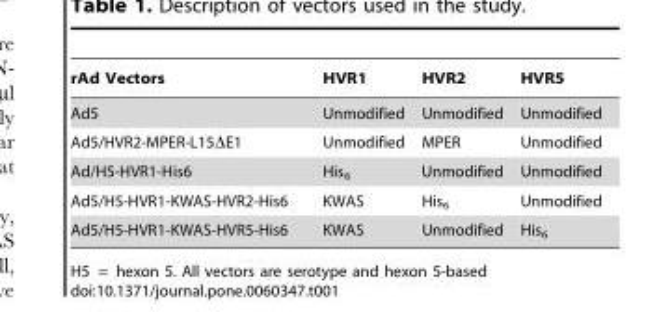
<table><thead><tr><td>rAd Vectors</td><td>HVR1</td><td>HVR2</td><td>HVR5</td></tr></thead><tbody><tr><td>Ad5</td><td>Unmodified</td><td>Unmodified</td><td>Unmodified</td></tr><tr><td>Ad5/HVR2-MPER-L15ΔE1</td><td>Unmodified</td><td>MPER</td><td>Unmodified</td></tr><tr><td>Ad/H5-HVR1-His6</td><td>His<sub>6</sub></td><td>Unmodified</td><td>Unmodified</td></tr><tr><td>Ad5/H5-HVR1-KWAS-HVR2-His6</td><td>KWAS</td><td>His<sub>6</sub></td><td>Unmodified</td></tr><tr><td>Ad5/H5-HVR1-KWAS-HVR5-His6</td><td>KWAS</td><td>Unmodified</td><td>His<sub>6</sub></td></tr></tbody></table>